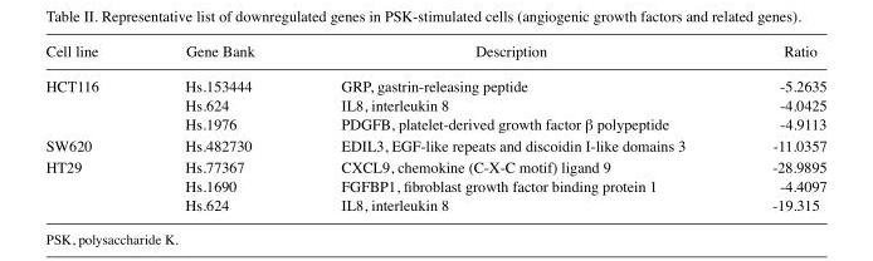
<table><thead><tr><td>Cell line</td><td>Gene Bank</td><td>Description</td><td>Ratio</td></tr></thead><tbody><tr><td rowspan="3">HCT116</td><td>Hs.153444</td><td>GRP, gastrin-releasing peptide</td><td>-5.2635</td></tr><tr><td>Hs.624</td><td>IL8, interleukin 8</td><td>-4.0425</td></tr><tr><td>Hs.1976</td><td>PDGFB, platelet-derived growth factor β polypeptide</td><td>-4.9113</td></tr><tr><td>SW620</td><td>Hs.482730</td><td>EDIL3, EGF-like repeats and discoidin I-like domains 3</td><td>-11.0357</td></tr><tr><td rowspan="3">HT29</td><td>Hs.77367</td><td>CXCL9, chemokine (C-X-C motif) ligand 9</td><td>-28.9895</td></tr><tr><td>Hs.1690</td><td>FGFBP1, fibroblast growth factor binding protein 1</td><td>‑4.4097</td></tr><tr><td>Hs.624</td><td>IL8, interleukin 8</td><td>-19.315</td></tr></tbody></table>